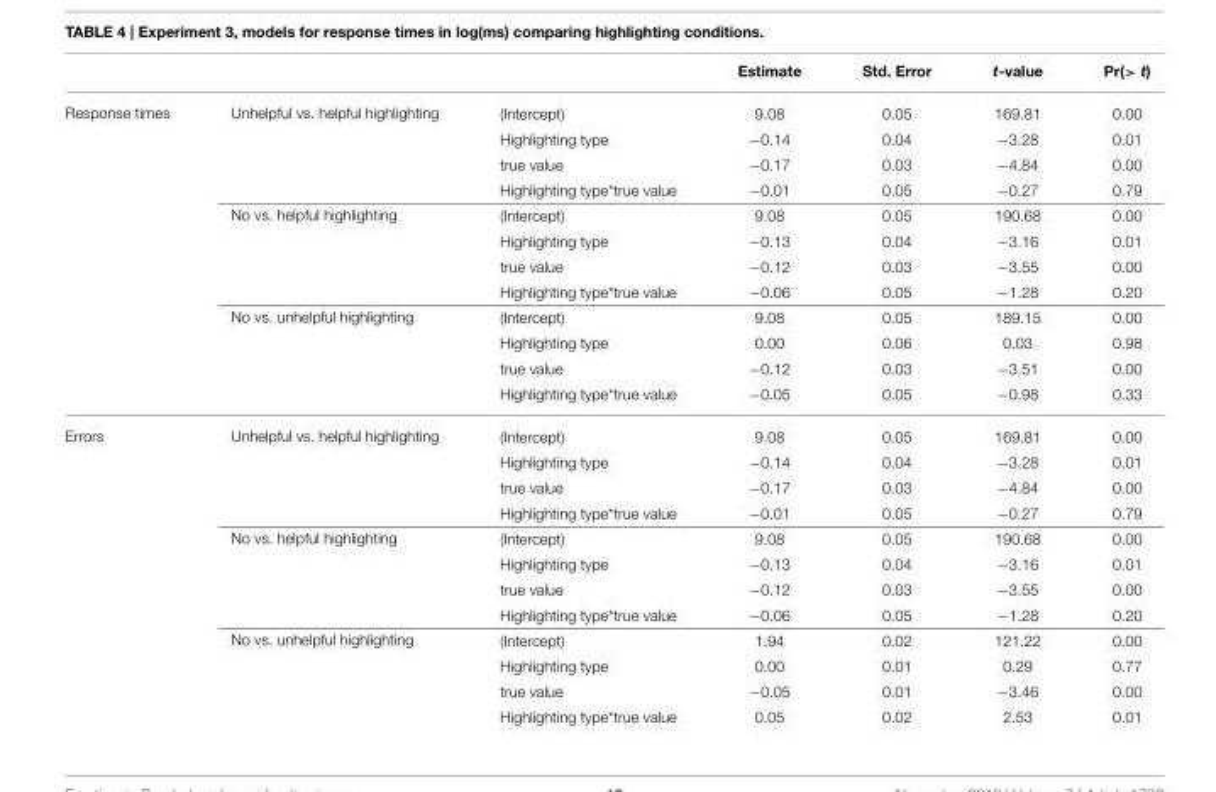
<table><thead><tr><td></td><td></td><td></td><td>Estimate</td><td>Std. Error</td><td>t-value</td><td>Pr(&gt; t)</td></tr></thead><tbody><tr><td rowspan="12">Response times</td><td>Unhelpful vs. helpful highlighting</td><td>(Intercept)</td><td>9.08</td><td>0.05</td><td>169.81</td><td>0.00</td></tr><tr><td></td><td>Highlighting type</td><td>−0.14</td><td>0.04</td><td>−3.28</td><td>0.01</td></tr><tr><td></td><td>true value</td><td>−0.17</td><td>0.03</td><td>−4.84</td><td>0.00</td></tr><tr><td></td><td>Highlighting type*true value</td><td>−0.01</td><td>0.05</td><td>−0.27</td><td>0.79</td></tr><tr><td>No vs. helpful highlighting</td><td>(Intercept)</td><td>9.08</td><td>0.05</td><td>190.68</td><td>0.00</td></tr><tr><td></td><td>Highlighting type</td><td>−0.13</td><td>0.04</td><td>−3.16</td><td>0.01</td></tr><tr><td></td><td>true value</td><td>−0.12</td><td>0.03</td><td>−3.55</td><td>0.00</td></tr><tr><td></td><td>Highlighting type*true value</td><td>−0.06</td><td>0.05</td><td>−1.28</td><td>0.20</td></tr><tr><td>No vs. unhelpful highlighting</td><td>(Intercept)</td><td>9.08</td><td>0.05</td><td>189.15</td><td>0.00</td></tr><tr><td></td><td>Highlighting type</td><td>0.00</td><td>0.06</td><td>0.03</td><td>0.98</td></tr><tr><td></td><td>true value</td><td>−0.12</td><td>0.03</td><td>−3.51</td><td>0.00</td></tr><tr><td></td><td>Highlighting type*true value</td><td>−0.05</td><td>0.05</td><td>−0.98</td><td>0.33</td></tr><tr><td rowspan="12">Errors</td><td>Unhelpful vs. helpful highlighting</td><td>(Intercept)</td><td>9.08</td><td>0.05</td><td>169.81</td><td>0.00</td></tr><tr><td></td><td>Highlighting type</td><td>−0.14</td><td>0.04</td><td>−3.28</td><td>0.01</td></tr><tr><td></td><td>true value</td><td>−0.17</td><td>0.03</td><td>−4.84</td><td>0.00</td></tr><tr><td></td><td>Highlighting type*true value</td><td>−0.01</td><td>0.05</td><td>−0.27</td><td>0.79</td></tr><tr><td>No vs. helpful highlighting</td><td>(Intercept)</td><td>9.08</td><td>0.05</td><td>190.68</td><td>0.00</td></tr><tr><td></td><td>Highlighting type</td><td>−0.13</td><td>0.04</td><td>−3.16</td><td>0.01</td></tr><tr><td></td><td>true value</td><td>−0.12</td><td>0.03</td><td>−3.55</td><td>0.00</td></tr><tr><td></td><td>Highlighting type*true value</td><td>−0.06</td><td>0.05</td><td>−1.28</td><td>0.20</td></tr><tr><td>No vs. unhelpful highlighting</td><td>(Intercept)</td><td>1.94</td><td>0.02</td><td>121.22</td><td>0.00</td></tr><tr><td></td><td>Highlighting type</td><td>0.00</td><td>0.01</td><td>0.29</td><td>0.77</td></tr><tr><td></td><td>true value</td><td>−0.05</td><td>0.01</td><td>−3.46</td><td>0.00</td></tr><tr><td></td><td>Highlighting type*true value</td><td>0.05</td><td>0.02</td><td>2.53</td><td>0.01</td></tr></tbody></table>